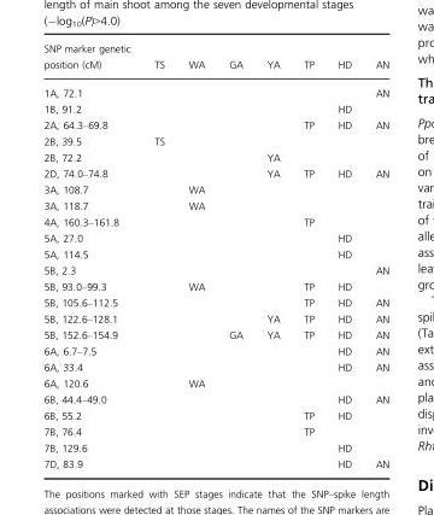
<table><thead><tr><td>SNP marker genetic position (cM)</td><td>TS</td><td>WA</td><td>GA</td><td>YA</td><td>TP</td><td>HD</td><td>AN</td></tr></thead><tbody><tr><td>1A, 72.1</td><td></td><td></td><td></td><td></td><td></td><td></td><td>AN</td></tr><tr><td>1B, 91.2</td><td></td><td></td><td></td><td></td><td></td><td>HD</td><td></td></tr><tr><td>2A, 64.3–69.8</td><td></td><td></td><td></td><td></td><td>TP</td><td>HD</td><td>AN</td></tr><tr><td>2B, 39.5</td><td>TS</td><td></td><td></td><td></td><td></td><td></td><td></td></tr><tr><td>2B, 72.2</td><td></td><td></td><td></td><td>YA</td><td></td><td></td><td></td></tr><tr><td>2D, 74.0–74.8</td><td></td><td></td><td></td><td>YA</td><td>TP</td><td>HD</td><td>AN</td></tr><tr><td>3A, 108.7</td><td></td><td>WA</td><td></td><td></td><td></td><td></td><td></td></tr><tr><td>3A, 118.7</td><td></td><td>WA</td><td></td><td></td><td></td><td></td><td></td></tr><tr><td>4A, 160.3–161.8</td><td></td><td></td><td></td><td></td><td>TP</td><td></td><td></td></tr><tr><td>5A, 27.0</td><td></td><td></td><td></td><td></td><td></td><td>HD</td><td></td></tr><tr><td>5A, 114.5</td><td></td><td></td><td></td><td></td><td></td><td>HD</td><td></td></tr><tr><td>5B, 2.3</td><td></td><td></td><td></td><td></td><td></td><td></td><td>AN</td></tr><tr><td>5B, 93.0–99.3</td><td></td><td>WA</td><td></td><td></td><td>TP</td><td>HD</td><td></td></tr><tr><td>5B, 105.6–112.5</td><td></td><td></td><td></td><td></td><td>TP</td><td>HD</td><td>AN</td></tr><tr><td>5B, 122.6–128.1</td><td></td><td></td><td></td><td>YA</td><td>TP</td><td>HD</td><td>AN</td></tr><tr><td>5B, 152.6–154.9</td><td></td><td></td><td>GA</td><td>YA</td><td>TP</td><td>HD</td><td>AN</td></tr><tr><td>6A, 6.7–7.5</td><td></td><td></td><td></td><td></td><td></td><td>HD</td><td>AN</td></tr><tr><td>6A, 33.4</td><td></td><td></td><td></td><td></td><td></td><td>HD</td><td>AN</td></tr><tr><td>6A, 120.6</td><td></td><td>WA</td><td></td><td></td><td></td><td></td><td></td></tr><tr><td>6B, 44.4–49.0</td><td></td><td></td><td></td><td></td><td></td><td>HD</td><td>AN</td></tr><tr><td>6B, 55.2</td><td></td><td></td><td></td><td></td><td>TP</td><td>HD</td><td></td></tr><tr><td>7B, 76.4</td><td></td><td></td><td></td><td></td><td>TP</td><td></td><td></td></tr><tr><td>7B, 129.6</td><td></td><td></td><td></td><td></td><td></td><td>HD</td><td></td></tr><tr><td>7D, 83.9</td><td></td><td></td><td></td><td></td><td></td><td>HD</td><td>AN</td></tr></tbody></table>